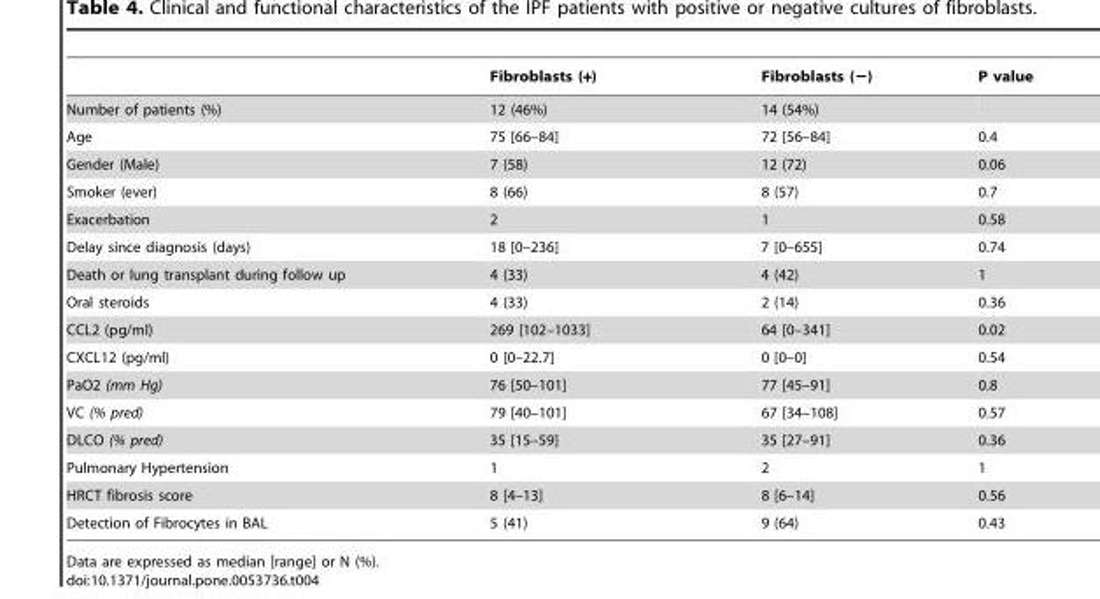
<table><thead><tr><td></td><td>Fibroblasts (+)</td><td>Fibroblasts (−)</td><td>P value</td></tr></thead><tbody><tr><td>Number of patients (%)</td><td>12 (46%)</td><td>14 (54%)</td><td></td></tr><tr><td>Age</td><td>75 [66–84]</td><td>72 [56–84]</td><td>0.4</td></tr><tr><td>Gender (Male)</td><td>7 (58)</td><td>12 (72)</td><td>0.06</td></tr><tr><td>Smoker (ever)</td><td>8 (66)</td><td>8 (57)</td><td>0.7</td></tr><tr><td>Exacerbation</td><td>2</td><td>1</td><td>0.58</td></tr><tr><td>Delay since diagnosis (days)</td><td>18 [0–236]</td><td>7 [0–655]</td><td>0.74</td></tr><tr><td>Death or lung transplant during follow up</td><td>4 (33)</td><td>4 (42)</td><td>1</td></tr><tr><td>Oral steroids</td><td>4 (33)</td><td>2 (14)</td><td>0.36</td></tr><tr><td>CCL2 (pg/ml)</td><td>269 [102–1033]</td><td>64 [0–341]</td><td>0.02</td></tr><tr><td>CXCL12 (pg/ml)</td><td>0 [0–22.7]</td><td>0 [0–0]</td><td>0.54</td></tr><tr><td>PaO2 (mm Hg)</td><td>76 [50–101]</td><td>77 [45–91]</td><td>0.8</td></tr><tr><td>VC (% pred)</td><td>79 [40–101]</td><td>67 [34–108]</td><td>0.57</td></tr><tr><td>DLCO (% pred)</td><td>35 [15–59]</td><td>35 [27–91]</td><td>0.36</td></tr><tr><td>Pulmonary Hypertension</td><td>1</td><td>2</td><td>1</td></tr><tr><td>HRCT fibrosis score</td><td>8 [4–13]</td><td>8 [6–14]</td><td>0.56</td></tr><tr><td>Detection of Fibrocytes in BAL</td><td>5 (41)</td><td>9 (64)</td><td>0.43</td></tr></tbody></table>